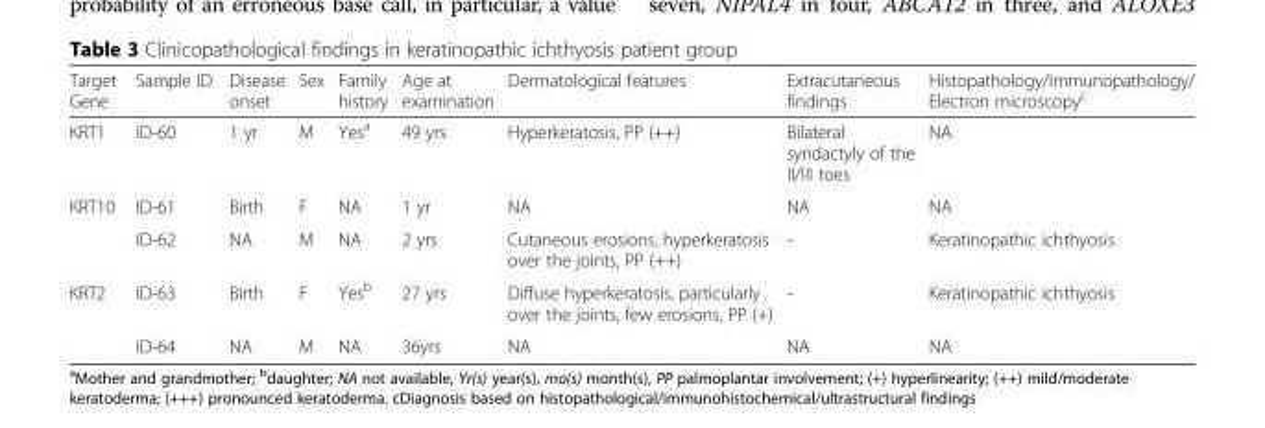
<table><thead><tr><td>Target Gene</td><td>Sample ID</td><td>Disease onset</td><td>Sex</td><td>Family history</td><td>Age at examination</td><td>Dermatological features</td><td>Extracutaneous findings</td><td>Histopathology/Immunopathology/ Electron microscopy<sup>c</sup></td></tr></thead><tbody><tr><td>KRT1</td><td>ID-60</td><td>1 yr</td><td>M</td><td>Yes<sup>a</sup></td><td>49 yrs</td><td>Hyperkeratosis, PP (++)</td><td>Bilateral syndactyly of the II/III toes</td><td>NA</td></tr><tr><td rowspan="2">KRT10</td><td>ID-61</td><td>Birth</td><td>F</td><td>NA</td><td>1 yr</td><td>NA</td><td>NA</td><td>NA</td></tr><tr><td>ID-62</td><td>NA</td><td>M</td><td>NA</td><td>2 yrs</td><td>Cutaneous erosions, hyperkeratosis over the joints, PP (++)</td><td>-</td><td>Keratinopathic ichthyosis</td></tr><tr><td rowspan="2">KRT2</td><td>ID-63</td><td>Birth</td><td>F</td><td>Yes<sup>b</sup></td><td>27 yrs</td><td>Diffuse hyperkeratosis, particularly over the joints, few erosions, PP (+)</td><td>-</td><td>Keratinopathic ichthyosis</td></tr><tr><td>ID-64</td><td>NA</td><td>M</td><td>NA</td><td>36yrs</td><td>NA</td><td>NA</td><td>NA</td></tr></tbody></table>